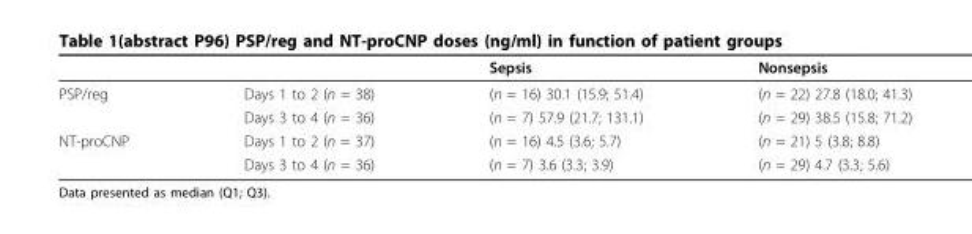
<table><thead><tr><td></td><td></td><td>Sepsis</td><td>Nonsepsis</td></tr></thead><tbody><tr><td rowspan="2">PSP/reg</td><td>Days 1 to 2 (n = 38)</td><td>(n = 16) 30.1 (15.9; 51.4)</td><td>(n = 22) 27.8 (18.0; 41.3)</td></tr><tr><td>Days 3 to 4 (n = 36)</td><td>(n = 7) 57.9 (21.7; 131.1)</td><td>(n = 29) 38.5 (15.8; 71.2)</td></tr><tr><td rowspan="2">NT-proCNP</td><td>Days 1 to 2 (n = 37)</td><td>(n = 16) 4.5 (3.6; 5.7)</td><td>(n = 21) 5 (3.8; 8.8)</td></tr><tr><td>Days 3 to 4 (n = 36)</td><td>(n = 7) 3.6 (3.3; 3.9)</td><td>(n = 29) 4.7 (3.3; 5.6)</td></tr></tbody></table>